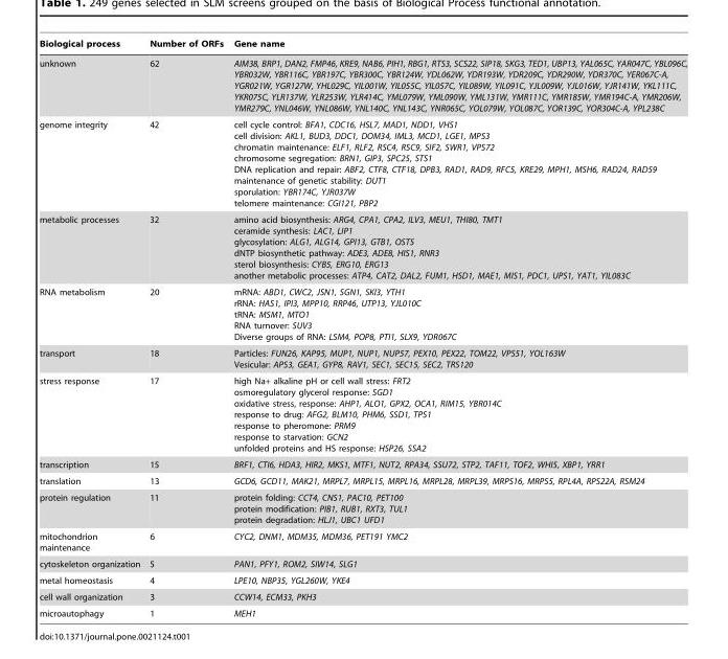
<table><thead><tr><td>Biological process</td><td>Number of ORFs</td><td>Gene name</td></tr></thead><tbody><tr><td>unknown</td><td>62</td><td>AIM38, BRP1, DAN2, FMP46, KRE9, NAB6, PIH1, RBG1, RTS3, SCS22, SIP18, SKG3, TED1, UBP13, YAL065C, YAR047C, YBL096C, YBR032W, YBR116C, YBR197C, YBR300C, YBR124W, YDL062W, YDR193W, YDR209C, YDR290W, YDR370C, YER067C-A, YGR021W, YGR127W, YHL029C, YIL001W, YIL055C, YIL057C, YIL089W, YIL091C, YJL009W, YJL016W, YJR141W, YKL111C, YKR075C, YLR137W, YLR253W, YLR414C, YML079W, YML090W, YML131W, YMR111C, YMR185W, YMR194C-A, YMR206W, YMR279C, YNL046W, YNL086W, YNL140C, YNL143C, YNR065C, YOL079W, YOL087C, YOR139C, YOR304C-A, YPL238C</td></tr><tr><td>genome integrity</td><td>42</td><td>cell cycle control: BFA1, CDC16, HSL7, MAD1, NDD1, VHS1 cell division: AKL1, BUD3, DDC1, DOM34, IML3, MCD1, LGE1, MPS3 chromatin maintenance: ELF1, RLF2, RSC4, RSC9, SIF2, SWR1, VPS72 chromosome segregation: BRN1, GIP3, SPC25, STS1 DNA replication and repair: ABF2, CTF8, CTF18, DPB3, RAD1, RAD9, RFC5, KRE29, MPH1, MSH6, RAD24, RAD59 maintenance of genetic stability: DUT1 sporulation: YBR174C, YJR037W telomere maintenance: CGI121, PBP2</td></tr><tr><td>metabolic processes</td><td>32</td><td>amino acid biosynthesis: ARG4, CPA1, CPA2, ILV3, MEU1, THI80, TMT1 ceramide synthesis: LAC1, LIP1 glycosylation: ALG1, ALG14, GPI13, GTB1, OST5 dNTP biosynthetic pathway: ADE3, ADE8, HIS1, RNR3 sterol biosynthesis: CYB5, ERG10, ERG13 another metabolic processes: ATP4, CAT2, DAL2, FUM1, HSD1, MAE1, MIS1, PDC1, UPS1, YAT1, YIL083C</td></tr><tr><td>RNA metabolism</td><td>20</td><td>mRNA: ABD1, CWC2, JSN1, SGN1, SKI3, YTH1 rRNA: HAS1, IPI3, MPP10, RRP46, UTP13, YJL010C tRNA: MSM1, MTO1 RNA turnover: SUV3 Diverse groups of RNA: LSM4, POP8, PTI1, SLX9, YDR067C</td></tr><tr><td>transport</td><td>18</td><td>Particles: FUN26, KAP95, MUP1, NUP1, NUP57, PEX10, PEX22, TOM22, VPS51, YOL163W Vesicular: APS3, GEA1, GYP8, RAV1, SEC1, SEC15, SEC2, TRS120</td></tr><tr><td>stress response</td><td>17</td><td>high Na+ alkaline pH or cell wall stress: FRT2 osmoregulatory glycerol response: SGD1 oxidative stress, response: AHP1, ALO1, GPX2, OCA1, RIM15, YBR014C response to drug: AFG2, BLM10, PHM6, SSD1, TPS1 response to pheromone: PRM9 response to starvation: GCN2 unfolded proteins and HS response: HSP26, SSA2</td></tr><tr><td>transcription</td><td>15</td><td>BRF1, CTI6, HDA3, HIR2, MKS1, MTF1, NUT2, RPA34, SSU72, STP2, TAF11, TOF2, WHI5, XBP1, YRR1</td></tr><tr><td>translation</td><td>13</td><td>GCD6, GCD11, MAK21, MRPL7, MRPL15, MRPL16, MRPL28, MRPL39, MRPS16, MRPS5, RPL4A, RPS22A, RSM24</td></tr><tr><td>protein regulation</td><td>11</td><td>protein folding: CCT4, CNS1, PAC10, PET100 protein modification: PIB1, RUB1, RXT3, TUL1 protein degradation: HLJ1, UBC1 UFD1</td></tr><tr><td>mitochondrion maintenance</td><td>6</td><td>CYC2, DNM1, MDM35, MDM36, PET191 YMC2</td></tr><tr><td>cytoskeleton organization</td><td>5</td><td>PAN1, PFY1, ROM2, SIW14, SLG1</td></tr><tr><td>metal homeostasis</td><td>4</td><td>LPE10, NBP35, YGL260W, YKE4</td></tr><tr><td>cell wall organization</td><td>3</td><td>CCW14, ECM33, PKH3</td></tr><tr><td>microautophagy</td><td>1</td><td>MEH1</td></tr></tbody></table>